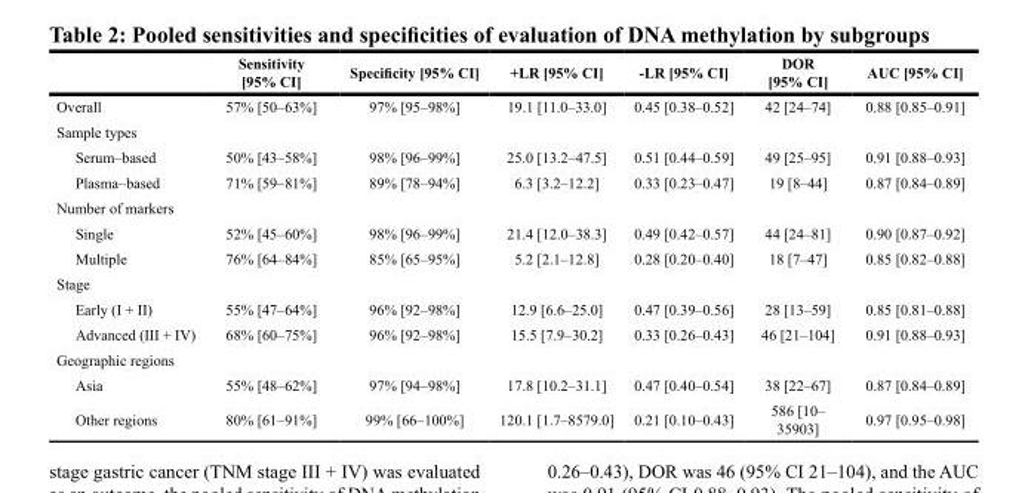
<table><thead><tr><td></td><td>Sensitivity [95% CI]</td><td>Specificity [95% CI]</td><td>+LR [95% CI]</td><td>-LR [95% CI]</td><td>DOR [95% CI]</td><td>AUC [95% CI]</td></tr></thead><tbody><tr><td>Overall</td><td>57% [50–63%]</td><td>97% [95–98%]</td><td>19.1 [11.0–33.0]</td><td>0.45 [0.38–0.52]</td><td>42 [24–74]</td><td>0.88 [0.85–0.91]</td></tr><tr><td colspan="7">Sample types</td></tr><tr><td>Serum–based</td><td>50% [43–58%]</td><td>98% [96–99%]</td><td>25.0 [13.2–47.5]</td><td>0.51 [0.44–0.59]</td><td>49 [25–95]</td><td>0.91 [0.88–0.93]</td></tr><tr><td>Plasma–based</td><td>71% [59–81%]</td><td>89% [78–94%]</td><td>6.3 [3.2–12.2]</td><td>0.33 [0.23–0.47]</td><td>19 [8–44]</td><td>0.87 [0.84–0.89]</td></tr><tr><td colspan="7">Number of markers</td></tr><tr><td>Single</td><td>52% [45–60%]</td><td>98% [96–99%]</td><td>21.4 [12.0–38.3]</td><td>0.49 [0.42–0.57]</td><td>44 [24–81]</td><td>0.90 [0.87–0.92]</td></tr><tr><td>Multiple</td><td>76% [64–84%]</td><td>85% [65–95%]</td><td>5.2 [2.1–12.8]</td><td>0.28 [0.20–0.40]</td><td>18 [7–47]</td><td>0.85 [0.82–0.88]</td></tr><tr><td colspan="7">Stage</td></tr><tr><td>Early (I + II)</td><td>55% [47–64%]</td><td>96% [92–98%]</td><td>12.9 [6.6–25.0]</td><td>0.47 [0.39–0.56]</td><td>28 [13–59]</td><td>0.85 [0.81–0.88]</td></tr><tr><td>Advanced (III + IV)</td><td>68% [60–75%]</td><td>96% [92–98%]</td><td>15.5 [7.9–30.2]</td><td>0.33 [0.26–0.43]</td><td>46 [21–104]</td><td>0.91 [0.88–0.93]</td></tr><tr><td colspan="7">Geographic regions</td></tr><tr><td>Asia</td><td>55% [48–62%]</td><td>97% [94–98%]</td><td>17.8 [10.2–31.1]</td><td>0.47 [0.40–0.54]</td><td>38 [22–67]</td><td>0.87 [0.84–0.89]</td></tr><tr><td>Other regions</td><td>80% [61–91%]</td><td>99% [66–100%]</td><td>120.1 [1.7–8579.0]</td><td>0.21 [0.10–0.43]</td><td>586 [10– 35903]</td><td>0.97 [0.95–0.98]</td></tr></tbody></table>